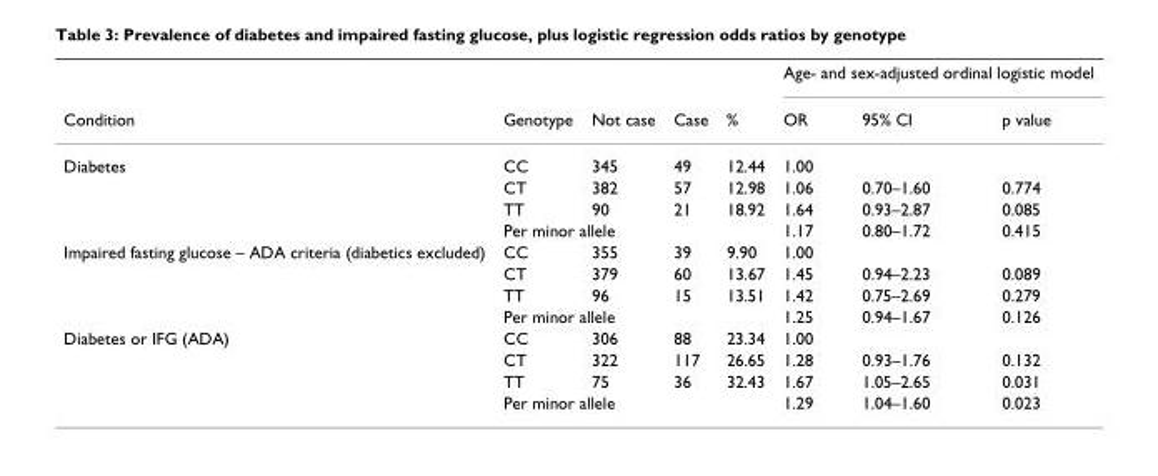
<table><thead><tr><td rowspan="2">Condition</td><td rowspan="2">Genotype</td><td rowspan="2">Not case</td><td rowspan="2">Case</td><td rowspan="2">%</td><td colspan="3">Age- and sex-adjusted ordinal logistic model</td></tr><tr><td>OR</td><td>95% CI</td><td>p value</td></tr></thead><tbody><tr><td rowspan="4">Diabetes</td><td>CC</td><td>345</td><td>49</td><td>12.44</td><td>1.00</td><td></td><td></td></tr><tr><td>CT</td><td>382</td><td>57</td><td>12.98</td><td>1.06</td><td>0.70–1.60</td><td>0.774</td></tr><tr><td>TT</td><td>90</td><td>21</td><td>18.92</td><td>1.64</td><td>0.93–2.87</td><td>0.085</td></tr><tr><td colspan="4">Per minor allele</td><td>1.17</td><td>0.80–1.72</td><td>0.415</td></tr><tr><td rowspan="4">Impaired fasting glucose – ADA criteria (diabetics excluded)</td><td>CC</td><td>355</td><td>39</td><td>9.90</td><td>1.00</td><td></td><td></td></tr><tr><td>CT</td><td>379</td><td>60</td><td>13.67</td><td>1.45</td><td>0.94–2.23</td><td>0.089</td></tr><tr><td>TT</td><td>96</td><td>15</td><td>13.51</td><td>1.42</td><td>0.75–2.69</td><td>0.279</td></tr><tr><td colspan="4">Per minor allele</td><td>1.25</td><td>0.94–1.67</td><td>0.126</td></tr><tr><td rowspan="4">Diabetes or IFG (ADA)</td><td>CC</td><td>306</td><td>88</td><td>23.34</td><td>1.00</td><td></td><td></td></tr><tr><td>CT</td><td>322</td><td>117</td><td>26.65</td><td>1.28</td><td>0.93–1.76</td><td>0.132</td></tr><tr><td>TT</td><td>75</td><td>36</td><td>32.43</td><td>1.67</td><td>1.05–2.65</td><td>0.031</td></tr><tr><td colspan="4">Per minor allele</td><td>1.29</td><td>1.04–1.60</td><td>0.023</td></tr></tbody></table>